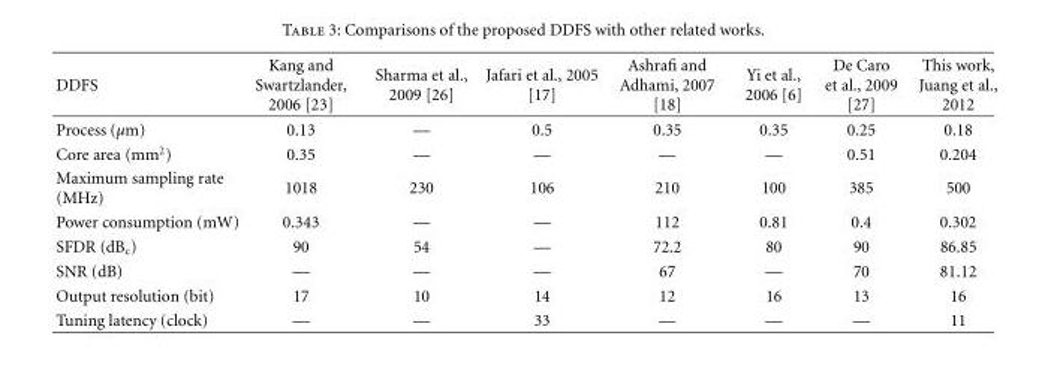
<table><thead><tr><td>DDFS</td><td>Kang and Swartzlander, 2006 [23]</td><td>Sharma et al., 2009 [26]</td><td>Jafari et al., 2005 [17]</td><td>Ashrafi and Adhami, 2007 [18]</td><td>Yi et al., 2006 [6]</td><td>De Caro et al., 2009 [27]</td><td>This work, Juang et al., 2012</td></tr></thead><tbody><tr><td>Process (μm)</td><td>0.13</td><td>—</td><td>0.5</td><td>0.35</td><td>0.35</td><td>0.25</td><td>0.18</td></tr><tr><td>Core area (mm<sup>2</sup>)</td><td>0.35</td><td>—</td><td>—</td><td>—</td><td>—</td><td>0.51</td><td>0.204</td></tr><tr><td>Maximum sampling rate (MHz)</td><td>1018</td><td>230</td><td>106</td><td>210</td><td>100</td><td>385</td><td>500</td></tr><tr><td>Power consumption (mW)</td><td>0.343</td><td>—</td><td>—</td><td>112</td><td>0.81</td><td>0.4</td><td>0.302</td></tr><tr><td>SFDR (dB<sub>c</sub>)</td><td>90</td><td>54</td><td>—</td><td>72.2</td><td>80</td><td>90</td><td>86.85</td></tr><tr><td>SNR (dB)</td><td>—</td><td>—</td><td>—</td><td>67</td><td>—</td><td>70</td><td>81.12</td></tr><tr><td>Output resolution (bit)</td><td>17</td><td>10</td><td>14</td><td>12</td><td>16</td><td>13</td><td>16</td></tr><tr><td>Tuning latency (clock)</td><td>—</td><td>—</td><td>33</td><td>—</td><td>—</td><td>—</td><td>11</td></tr></tbody></table>